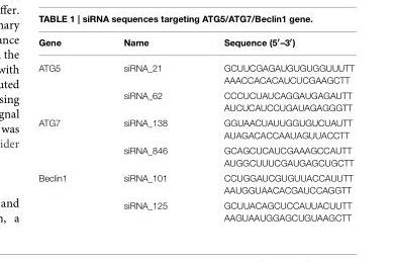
<table><thead><tr><td>Gene</td><td>Name</td><td>Sequence (5′–3′)</td></tr></thead><tbody><tr><td rowspan="2">ATG5</td><td>siRNA_21</td><td>GCUUCGAGAUGUGUGGUUUTT AAACCACACAUCUCGAAGCTT</td></tr><tr><td>siRNA_62</td><td>CCCUCUAUCAGGAUGAGAUTT AUCUCAUCCUGAUAGAGGGTT</td></tr><tr><td rowspan="2">ATG7</td><td>siRNA_138</td><td>GGUAACUAUUGGUGUCUAUTT AUAGACACCAAUAGUUACCTT</td></tr><tr><td>siRNA_846</td><td>GCAGCUCAUCGAAAGCCAUTT AUGGCUUUCGAUGAGCUGCTT</td></tr><tr><td rowspan="2">Beclin1</td><td>siRNA_101</td><td>CCUGGAUCGUGUUACCAUUTT AAUGGUAACACGAUCCAGGTT</td></tr><tr><td>siRNA_125</td><td>GCUUACAGCUCCAUUACUUTT AAGUAAUGGAGCUGUAAGCTT</td></tr></tbody></table>